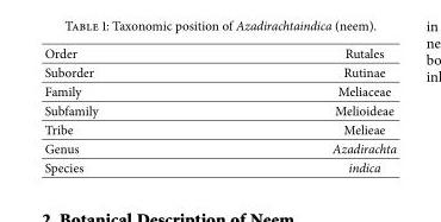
<table><tbody><tr><td>Order</td><td>Rutales</td></tr><tr><td>Suborder</td><td>Rutinae</td></tr><tr><td>Family</td><td>Meliaceae</td></tr><tr><td>Subfamily</td><td>Melioideae</td></tr><tr><td>Tribe</td><td>Melieae</td></tr><tr><td>Genus</td><td>Azadirachta</td></tr><tr><td>Species</td><td>indica</td></tr></tbody></table>